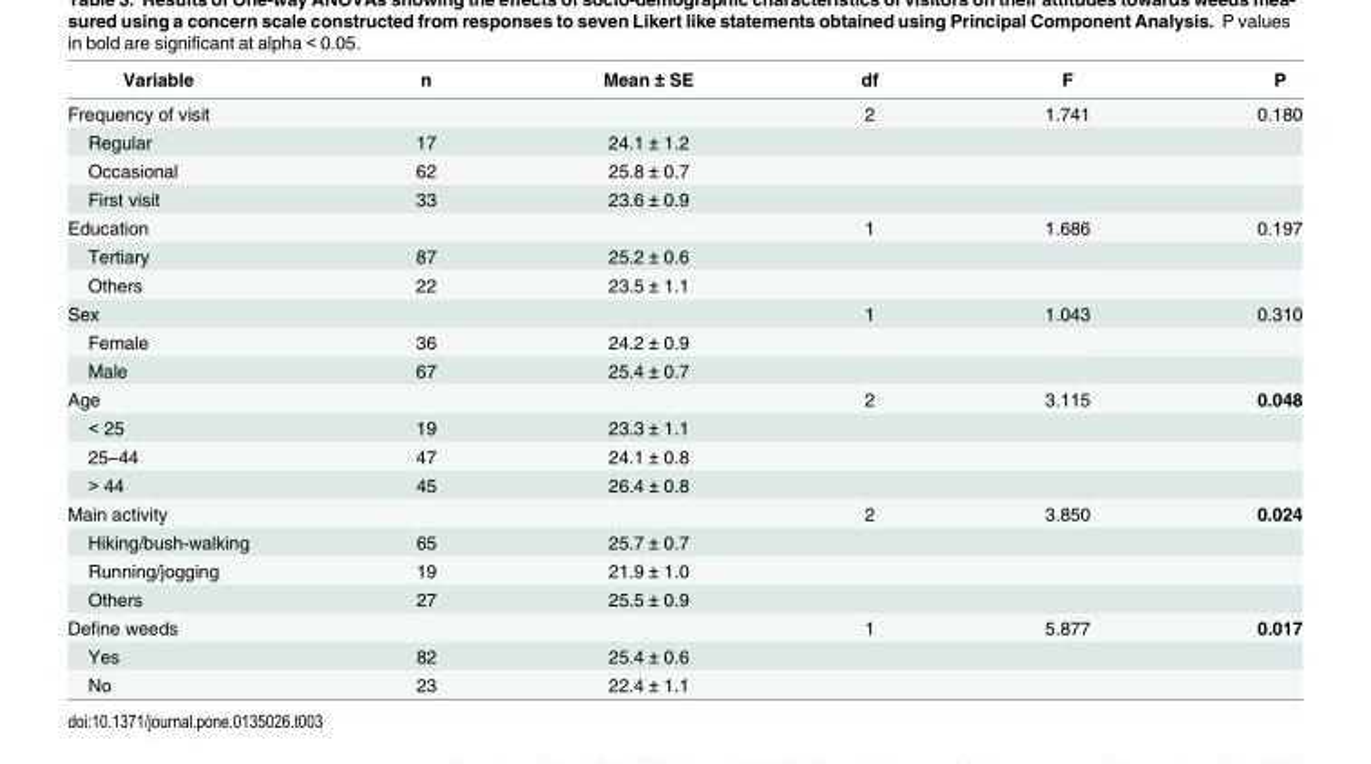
<table><thead><tr><td>Variable</td><td>n</td><td>Mean ± SE</td><td>df</td><td>F</td><td>P</td></tr></thead><tbody><tr><td>Frequency of visit</td><td></td><td></td><td>2</td><td>1.741</td><td>0.180</td></tr><tr><td>Regular</td><td>17</td><td>24.1 ± 1.2</td><td></td><td></td><td></td></tr><tr><td>Occasional</td><td>62</td><td>25.8 ± 0.7</td><td></td><td></td><td></td></tr><tr><td>First visit</td><td>33</td><td>23.6 ± 0.9</td><td></td><td></td><td></td></tr><tr><td>Education</td><td></td><td></td><td>1</td><td>1.686</td><td>0.197</td></tr><tr><td>Tertiary</td><td>87</td><td>25.2 ± 0.6</td><td></td><td></td><td></td></tr><tr><td>Others</td><td>22</td><td>23.5 ± 1.1</td><td></td><td></td><td></td></tr><tr><td>Sex</td><td></td><td></td><td>1</td><td>1.043</td><td>0.310</td></tr><tr><td>Female</td><td>36</td><td>24.2 ± 0.9</td><td></td><td></td><td></td></tr><tr><td>Male</td><td>67</td><td>25.4 ± 0.7</td><td></td><td></td><td></td></tr><tr><td>Age</td><td></td><td></td><td>2</td><td>3.115</td><td>0.048</td></tr><tr><td>&lt; 25</td><td>19</td><td>23.3 ± 1.1</td><td></td><td></td><td></td></tr><tr><td>25–44</td><td>47</td><td>24.1 ± 0.8</td><td></td><td></td><td></td></tr><tr><td>&gt; 44</td><td>45</td><td>26.4 ± 0.8</td><td></td><td></td><td></td></tr><tr><td>Main activity</td><td></td><td></td><td>2</td><td>3.850</td><td>0.024</td></tr><tr><td>Hiking/bush-walking</td><td>65</td><td>25.7 ± 0.7</td><td></td><td></td><td></td></tr><tr><td>Running/jogging</td><td>19</td><td>21.9 ± 1.0</td><td></td><td></td><td></td></tr><tr><td>Others</td><td>27</td><td>25.5 ± 0.9</td><td></td><td></td><td></td></tr><tr><td>Define weeds</td><td></td><td></td><td>1</td><td>5.877</td><td>0.017</td></tr><tr><td>Yes</td><td>82</td><td>25.4 ± 0.6</td><td></td><td></td><td></td></tr><tr><td>No</td><td>23</td><td>22.4 ± 1.1</td><td></td><td></td><td></td></tr></tbody></table>